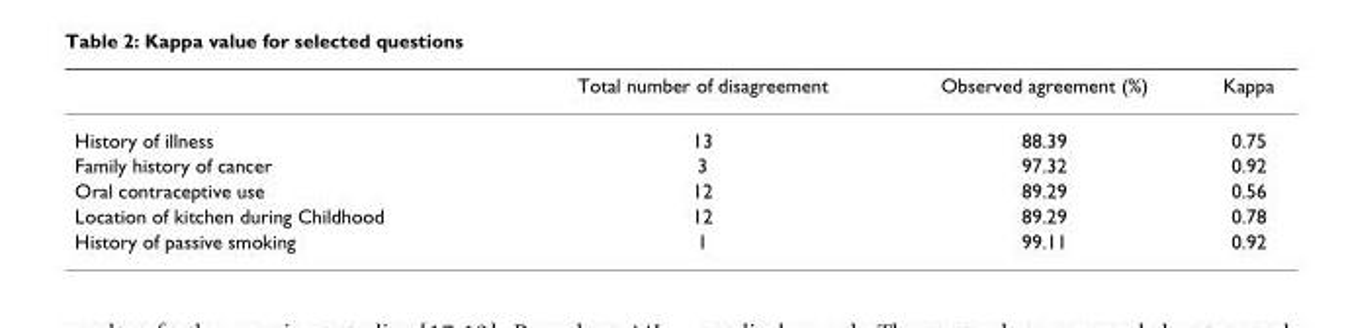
<table><thead><tr><td></td><td>Total number of disagreement</td><td>Observed agreement (%)</td><td>Kappa</td></tr></thead><tbody><tr><td>History of illness</td><td>13</td><td>88.39</td><td>0.75</td></tr><tr><td>Family history of cancer</td><td>3</td><td>97.32</td><td>0.92</td></tr><tr><td>Oral contraceptive use</td><td>12</td><td>89.29</td><td>0.56</td></tr><tr><td>Location of kitchen during Childhood</td><td>12</td><td>89.29</td><td>0.78</td></tr><tr><td>History of passive smoking</td><td>1</td><td>99.11</td><td>0.92</td></tr></tbody></table>